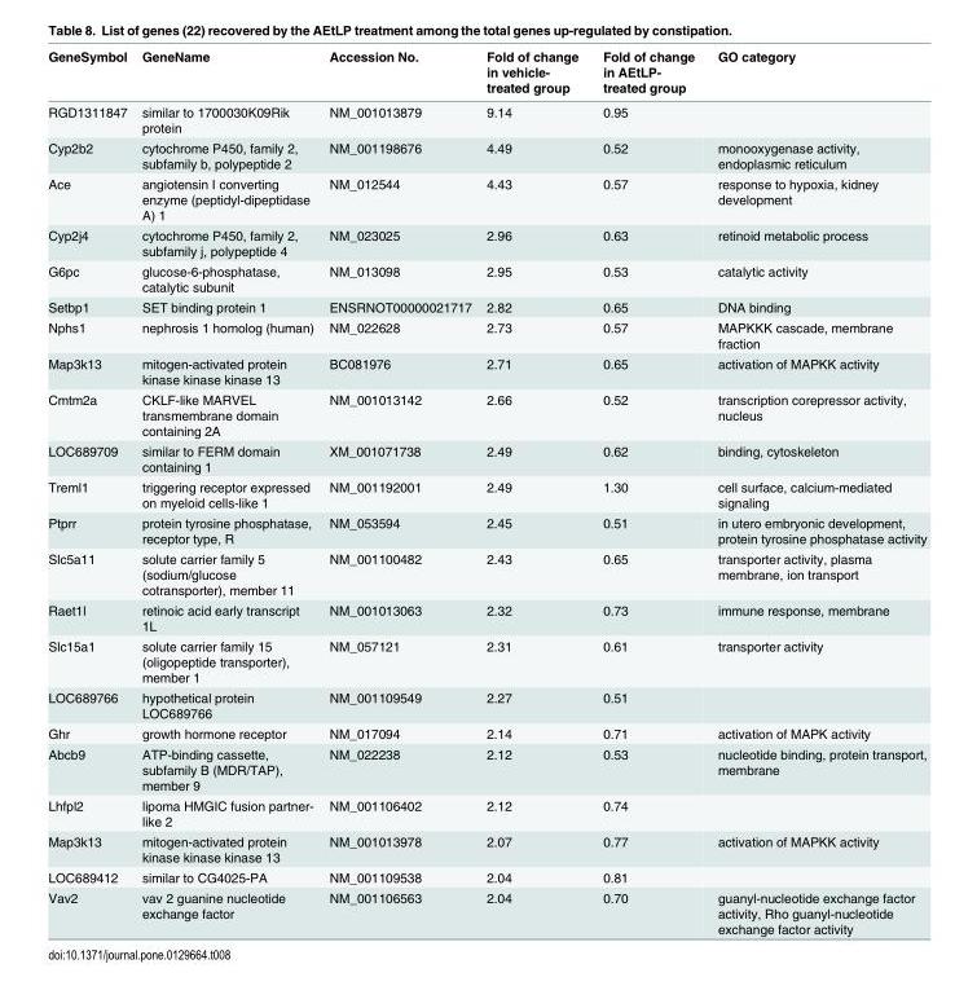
<table><thead><tr><td>GeneSymbol</td><td>GeneName</td><td>Accession No.</td><td>Fold of change in vehicle- treated group</td><td>Fold of change in AEtLP- treated group</td><td>GO category</td></tr></thead><tbody><tr><td>RGD1311847</td><td>similar to 1700030K09Rik protein</td><td>NM_001013879</td><td>9.14</td><td>0.95</td><td></td></tr><tr><td>Cyp2b2</td><td>cytochrome P450, family 2, subfamily b, polypeptide 2</td><td>NM_001198676</td><td>4.49</td><td>0.52</td><td>monooxygenase activity, endoplasmic reticulum</td></tr><tr><td>Ace</td><td>angiotensin I converting enzyme (peptidyl-dipeptidase A) 1</td><td>NM_012544</td><td>4.43</td><td>0.57</td><td>response to hypoxia, kidney development</td></tr><tr><td>Cyp2j4</td><td>cytochrome P450, family 2, subfamily j, polypeptide 4</td><td>NM_023025</td><td>2.96</td><td>0.63</td><td>retinoid metabolic process</td></tr><tr><td>G6pc</td><td>glucose-6-phosphatase, catalytic subunit</td><td>NM_013098</td><td>2.95</td><td>0.53</td><td>catalytic activity</td></tr><tr><td>Setbp1</td><td>SET binding protein 1</td><td>ENSRNOT00000021717</td><td>2.82</td><td>0.65</td><td>DNA binding</td></tr><tr><td>Nphs1</td><td>nephrosis 1 homolog (human)</td><td>NM_022628</td><td>2.73</td><td>0.57</td><td>MAPKKK cascade, membrane fraction</td></tr><tr><td>Map3k13</td><td>mitogen-activated protein kinase kinase kinase 13</td><td>BC081976</td><td>2.71</td><td>0.65</td><td>activation of MAPKK activity</td></tr><tr><td>Cmtm2a</td><td>CKLF-like MARVEL transmembrane domain containing 2A</td><td>NM_001013142</td><td>2.66</td><td>0.52</td><td>transcription corepressor activity, nucleus</td></tr><tr><td>LOC689709</td><td>similar to FERM domain containing 1</td><td>XM_001071738</td><td>2.49</td><td>0.62</td><td>binding, cytoskeleton</td></tr><tr><td>Treml1</td><td>triggering receptor expressed on myeloid cells-like 1</td><td>NM_001192001</td><td>2.49</td><td>1.30</td><td>cell surface, calcium-mediated signaling</td></tr><tr><td>Ptprr</td><td>protein tyrosine phosphatase, receptor type, R</td><td>NM_053594</td><td>2.45</td><td>0.51</td><td>in utero embryonic development, protein tyrosine phosphatase activity</td></tr><tr><td>Slc5a11</td><td>solute carrier family 5 (sodium/glucose cotransporter), member 11</td><td>NM_001100482</td><td>2.43</td><td>0.65</td><td>transporter activity, plasma membrane, ion transport</td></tr><tr><td>Raet1l</td><td>retinoic acid early transcript 1L</td><td>NM_001013063</td><td>2.32</td><td>0.73</td><td>immune response, membrane</td></tr><tr><td>Slc15a1</td><td>solute carrier family 15 (oligopeptide transporter), member 1</td><td>NM_057121</td><td>2.31</td><td>0.61</td><td>transporter activity</td></tr><tr><td>LOC689766</td><td>hypothetical protein LOC689766</td><td>NM_001109549</td><td>2.27</td><td>0.51</td><td></td></tr><tr><td>Ghr</td><td>growth hormone receptor</td><td>NM_017094</td><td>2.14</td><td>0.71</td><td>activation of MAPK activity</td></tr><tr><td>Abcb9</td><td>ATP-binding cassette, subfamily B (MDR/TAP), member 9</td><td>NM_022238</td><td>2.12</td><td>0.53</td><td>nucleotide binding, protein transport, membrane</td></tr><tr><td>Lhfpl2</td><td>lipoma HMGIC fusion partner- like 2</td><td>NM_001106402</td><td>2.12</td><td>0.74</td><td></td></tr><tr><td>Map3k13</td><td>mitogen-activated protein kinase kinase kinase 13</td><td>NM_001013978</td><td>2.07</td><td>0.77</td><td>activation of MAPKK activity</td></tr><tr><td>LOC689412</td><td>similar to CG4025-PA</td><td>NM_001109538</td><td>2.04</td><td>0.81</td><td></td></tr><tr><td>Vav2</td><td>vav 2 guanine nucleotide exchange factor</td><td>NM_001106563</td><td>2.04</td><td>0.70</td><td>guanyl-nucleotide exchange factor activity, Rho guanyl-nucleotide exchange factor activity</td></tr></tbody></table>